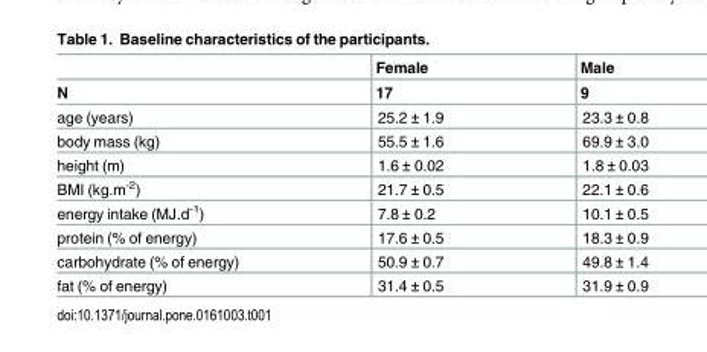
<table><thead><tr><td rowspan="2">N</td><td rowspan="2">Female 17</td><td rowspan="2">Male 9</td></tr><tr></tr></thead><tbody><tr><td>age (years)</td><td>25.2 ± 1.9</td><td>23.3 ± 0.8</td></tr><tr><td>body mass (kg)</td><td>55.5 ± 1.6</td><td>69.9 ± 3.0</td></tr><tr><td>height (m)</td><td>1.6 ± 0.02</td><td>1.8 ± 0.03</td></tr><tr><td>BMI (kg.m<sup>-2</sup>)</td><td>21.7 ± 0.5</td><td>22.1 ± 0.6</td></tr><tr><td>energy intake (MJ.d<sup>-1</sup>)</td><td>7.8 ± 0.2</td><td>10.1 ± 0.5</td></tr><tr><td>protein (% of energy)</td><td>17.6 ± 0.5</td><td>18.3 ± 0.9</td></tr><tr><td>carbohydrate (% of energy)</td><td>50.9 ± 0.7</td><td>49.8 ± 1.4</td></tr><tr><td>fat (% of energy)</td><td>31.4 ± 0.5</td><td>31.9 ± 0.9</td></tr></tbody></table>